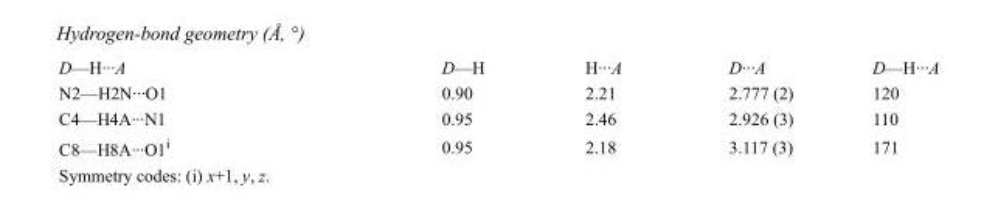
<table><tbody><tr><td>D—H···A</td><td>D—H</td><td>H···A</td><td>D···A</td><td>D—H···A</td></tr><tr><td>N2—H2N···O1</td><td>0.90</td><td>2.21</td><td>2.777 (2)</td><td>120</td></tr><tr><td>C4—H4A···N1</td><td>0.95</td><td>2.46</td><td>2.926 (3)</td><td>110</td></tr><tr><td>C8—H8A···O1<sup>i</sup></td><td>0.95</td><td>2.18</td><td>3.117 (3)</td><td>171</td></tr></tbody></table>